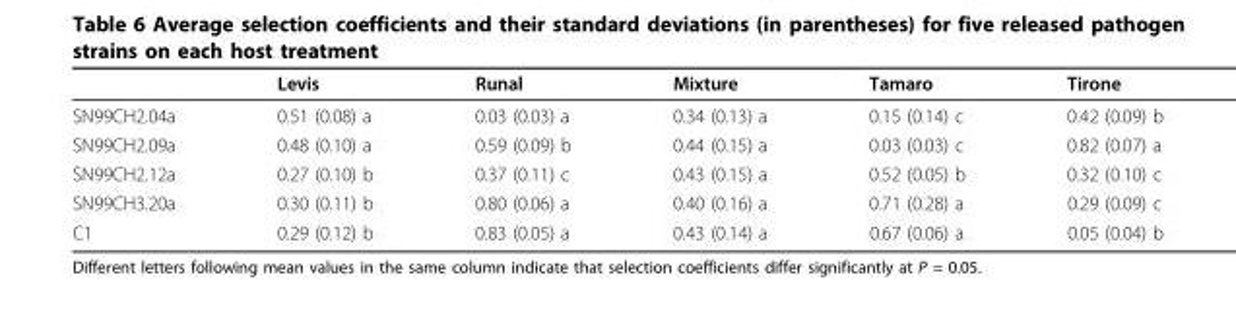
<table><thead><tr><td></td><td>Levis</td><td>Runal</td><td>Mixture</td><td>Tamaro</td><td>Tirone</td></tr></thead><tbody><tr><td>SN99CH2.04a</td><td>0.51 (0.08) a</td><td>0.03 (0.03) a</td><td>0.34 (0.13) a</td><td>0.15 (0.14) c</td><td>0.42 (0.09) b</td></tr><tr><td>SN99CH2.09a</td><td>0.48 (0.10) a</td><td>0.59 (0.09) b</td><td>0.44 (0.15) a</td><td>0.03 (0.03) c</td><td>0.82 (0.07) a</td></tr><tr><td>SN99CH2.12a</td><td>0.27 (0.10) b</td><td>0.37 (0.11) c</td><td>0.43 (0.15) a</td><td>0.52 (0.05) b</td><td>0.32 (0.10) c</td></tr><tr><td>SN99CH3.20a</td><td>0.30 (0.11) b</td><td>0.80 (0.06) a</td><td>0.40 (0.16) a</td><td>0.71 (0.28) a</td><td>0.29 (0.09) c</td></tr><tr><td>C1</td><td>0.29 (0.12) b</td><td>0.83 (0.05) a</td><td>0.43 (0.14) a</td><td>0.67 (0.06) a</td><td>0.05 (0.04) b</td></tr></tbody></table>